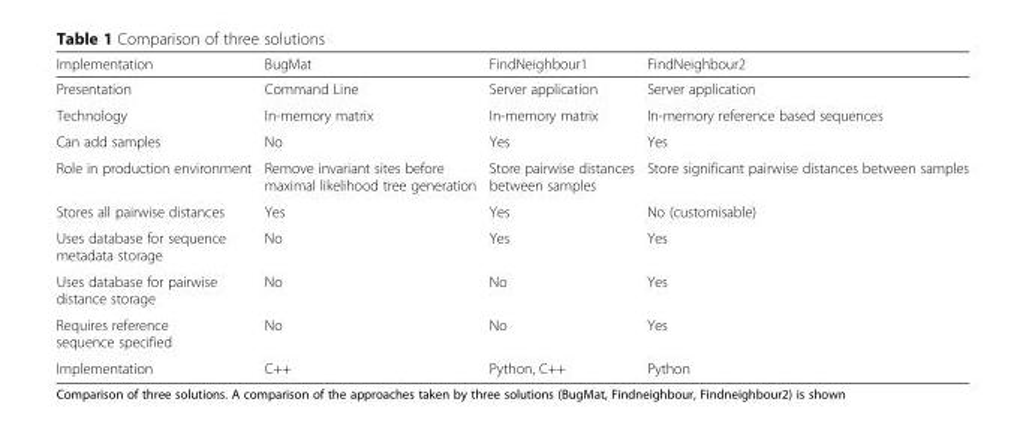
<table><thead><tr><td>Implementation</td><td>BugMat</td><td>FindNeighbour1</td><td>FindNeighbour2</td></tr></thead><tbody><tr><td>Presentation</td><td>Command Line</td><td>Server application</td><td>Server application</td></tr><tr><td>Technology</td><td>In-memory matrix</td><td>In-memory matrix</td><td>In-memory reference based sequences</td></tr><tr><td>Can add samples</td><td>No</td><td>Yes</td><td>Yes</td></tr><tr><td>Role in production environment</td><td>Remove invariant sites before maximal likelihood tree generation</td><td>Store pairwise distances between samples</td><td>Store significant pairwise distances between samples</td></tr><tr><td>Stores all pairwise distances</td><td>Yes</td><td>Yes</td><td>No (customisable)</td></tr><tr><td>Uses database for sequence metadata storage</td><td>No</td><td>Yes</td><td>Yes</td></tr><tr><td>Uses database for pairwise distance storage</td><td>No</td><td>No</td><td>Yes</td></tr><tr><td>Requires reference sequence specified</td><td>No</td><td>No</td><td>Yes</td></tr><tr><td>Implementation</td><td>C++</td><td>Python, C++</td><td>Python</td></tr></tbody></table>